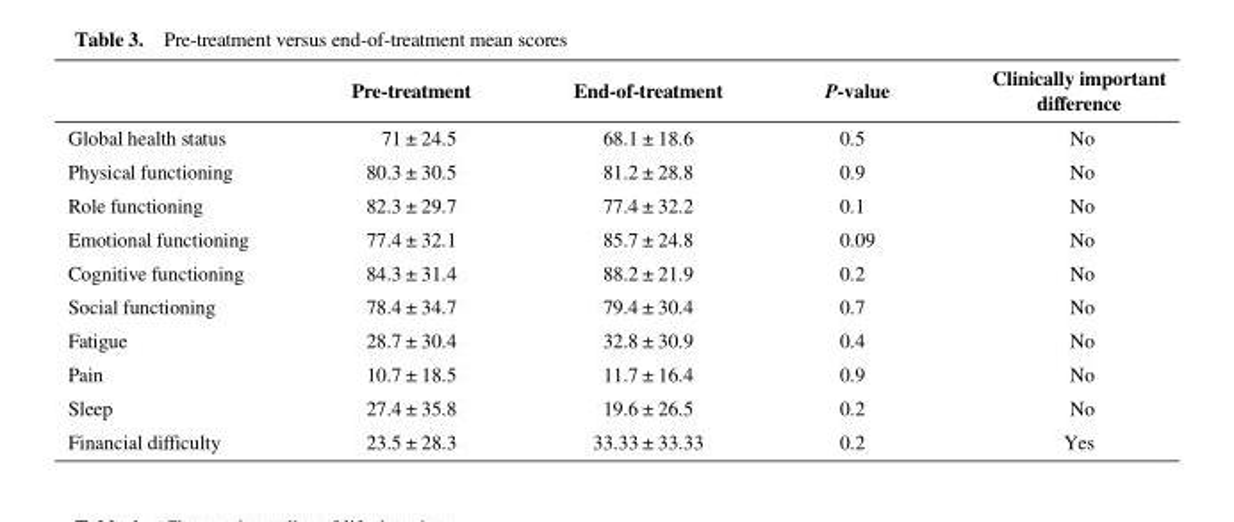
<table><thead><tr><td></td><td>Pre-treatment</td><td>End-of-treatment</td><td>P-value</td><td>Clinically important difference</td></tr></thead><tbody><tr><td>Global health status</td><td>71 ± 24.5</td><td>68.1 ± 18.6</td><td>0.5</td><td>No</td></tr><tr><td>Physical functioning</td><td>80.3 ± 30.5</td><td>81.2 ± 28.8</td><td>0.9</td><td>No</td></tr><tr><td>Role functioning</td><td>82.3 ± 29.7</td><td>77.4 ± 32.2</td><td>0.1</td><td>No</td></tr><tr><td>Emotional functioning</td><td>77.4 ± 32.1</td><td>85.7 ± 24.8</td><td>0.09</td><td>No</td></tr><tr><td>Cognitive functioning</td><td>84.3 ± 31.4</td><td>88.2 ± 21.9</td><td>0.2</td><td>No</td></tr><tr><td>Social functioning</td><td>78.4 ± 34.7</td><td>79.4 ± 30.4</td><td>0.7</td><td>No</td></tr><tr><td>Fatigue</td><td>28.7 ± 30.4</td><td>32.8 ± 30.9</td><td>0.4</td><td>No</td></tr><tr><td>Pain</td><td>10.7 ± 18.5</td><td>11.7 ± 16.4</td><td>0.9</td><td>No</td></tr><tr><td>Sleep</td><td>27.4 ± 35.8</td><td>19.6 ± 26.5</td><td>0.2</td><td>No</td></tr><tr><td>Financial difficulty</td><td>23.5 ± 28.3</td><td>33.33 ± 33.33</td><td>0.2</td><td>Yes</td></tr></tbody></table>